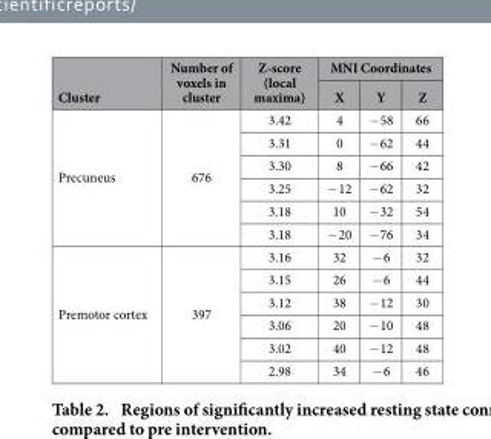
<table><thead><tr><td rowspan="2">Cluster</td><td rowspan="2">Number of voxels in cluster</td><td rowspan="2">Z-score (local maxima)</td><td colspan="3">MNI Coordinates</td></tr><tr><td>X</td><td>Y</td><td>Z</td></tr></thead><tbody><tr><td rowspan="6">Precuneus</td><td rowspan="6">676</td><td>3.42</td><td>4</td><td>− 58</td><td>66</td></tr><tr><td>3.31</td><td>0</td><td>− 62</td><td>44</td></tr><tr><td>3.30</td><td>8</td><td>− 66</td><td>42</td></tr><tr><td>3.25</td><td>− 12</td><td>− 62</td><td>32</td></tr><tr><td>3.18</td><td>10</td><td>− 32</td><td>54</td></tr><tr><td>3.18</td><td>− 20</td><td>− 76</td><td>34</td></tr><tr><td rowspan="6">Premotor cortex</td><td rowspan="6">397</td><td>3.16</td><td>32</td><td>− 6</td><td>32</td></tr><tr><td>3.15</td><td>26</td><td>− 6</td><td>44</td></tr><tr><td>3.12</td><td>38</td><td>− 12</td><td>30</td></tr><tr><td>3.06</td><td>20</td><td>− 10</td><td>48</td></tr><tr><td>3.02</td><td>40</td><td>− 12</td><td>48</td></tr><tr><td>2.98</td><td>34</td><td>− 6</td><td>46</td></tr></tbody></table>